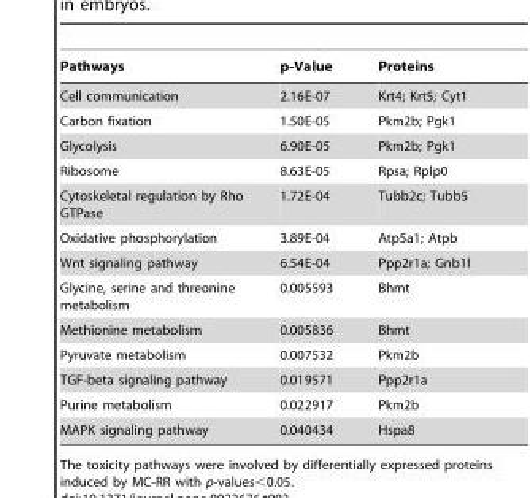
<table><thead><tr><td>Pathways</td><td>p-Value</td><td>Proteins</td></tr></thead><tbody><tr><td>Cell communication</td><td>2.16E-07</td><td>Krt4; Krt5; Cyt1</td></tr><tr><td>Carbon fixation</td><td>1.50E-05</td><td>Pkm2b; Pgk1</td></tr><tr><td>Glycolysis</td><td>6.90E-05</td><td>Pkm2b; Pgk1</td></tr><tr><td>Ribosome</td><td>8.63E-05</td><td>Rpsa; Rplp0</td></tr><tr><td>Cytoskeletal regulation by Rho GTPase</td><td>1.72E-04</td><td>Tubb2c; Tubb5</td></tr><tr><td>Oxidative phosphorylation</td><td>3.89E-04</td><td>Atp5a1; Atpb</td></tr><tr><td>Wnt signaling pathway</td><td>6.54E-04</td><td>Ppp2r1a; Gnb1l</td></tr><tr><td>Glycine, serine and threonine metabolism</td><td>0.005593</td><td>Bhmt</td></tr><tr><td>Methionine metabolism</td><td>0.005836</td><td>Bhmt</td></tr><tr><td>Pyruvate metabolism</td><td>0.007532</td><td>Pkm2b</td></tr><tr><td>TGF-beta signaling pathway</td><td>0.019571</td><td>Ppp2r1a</td></tr><tr><td>Purine metabolism</td><td>0.022917</td><td>Pkm2b</td></tr><tr><td>MAPK signaling pathway</td><td>0.040434</td><td>Hspa8</td></tr></tbody></table>